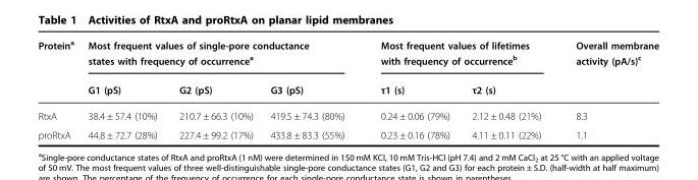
<table><thead><tr><td rowspan="2">Protein<sup>a</sup></td><td colspan="3">Most frequent values of single-pore conductance states with frequency of occurrence<sup>a</sup></td><td colspan="2">Most frequent values of lifetimes with frequency of occurrence<sup>b</sup></td><td rowspan="2">Overall membrane activity (pA/s)<sup>c</sup></td></tr><tr><td>G1 (pS)</td><td>G2 (pS)</td><td>G3 (pS)</td><td>τ1 (s)</td><td>τ2 (s)</td></tr></thead><tbody><tr><td>RtxA</td><td>38.4 ± 57.4 (10%)</td><td>210.7 ± 66.3 (10%)</td><td>419.5 ± 74.3 (80%)</td><td>0.24 ± 0.06 (79%)</td><td>2.12 ± 0.48 (21%)</td><td>8.3</td></tr><tr><td>proRtxA</td><td>44.8 ± 72.7 (28%)</td><td>227.4 ± 99.2 (17%)</td><td>433.8 ± 83.3 (55%)</td><td>0.23 ± 0.16 (78%)</td><td>4.11 ± 0.11 (22%)</td><td>1.1</td></tr></tbody></table>